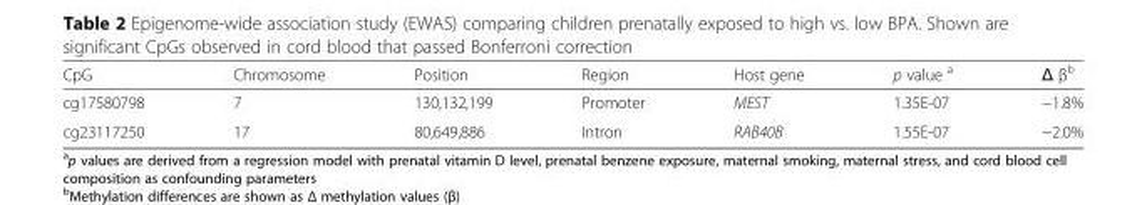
<table><thead><tr><td>CpG</td><td>Chromosome</td><td>Position</td><td>Region</td><td>Host gene</td><td>p value <sup>a</sup></td><td>Δ β<sup>b</sup></td></tr></thead><tbody><tr><td>cg17580798</td><td>7</td><td>130,132,199</td><td>Promoter</td><td>MEST</td><td>1.35E-07</td><td>−1.8%</td></tr><tr><td>cg23117250</td><td>17</td><td>80,649,886</td><td>Intron</td><td>RAB40B</td><td>1.55E-07</td><td>−2.0%</td></tr></tbody></table>